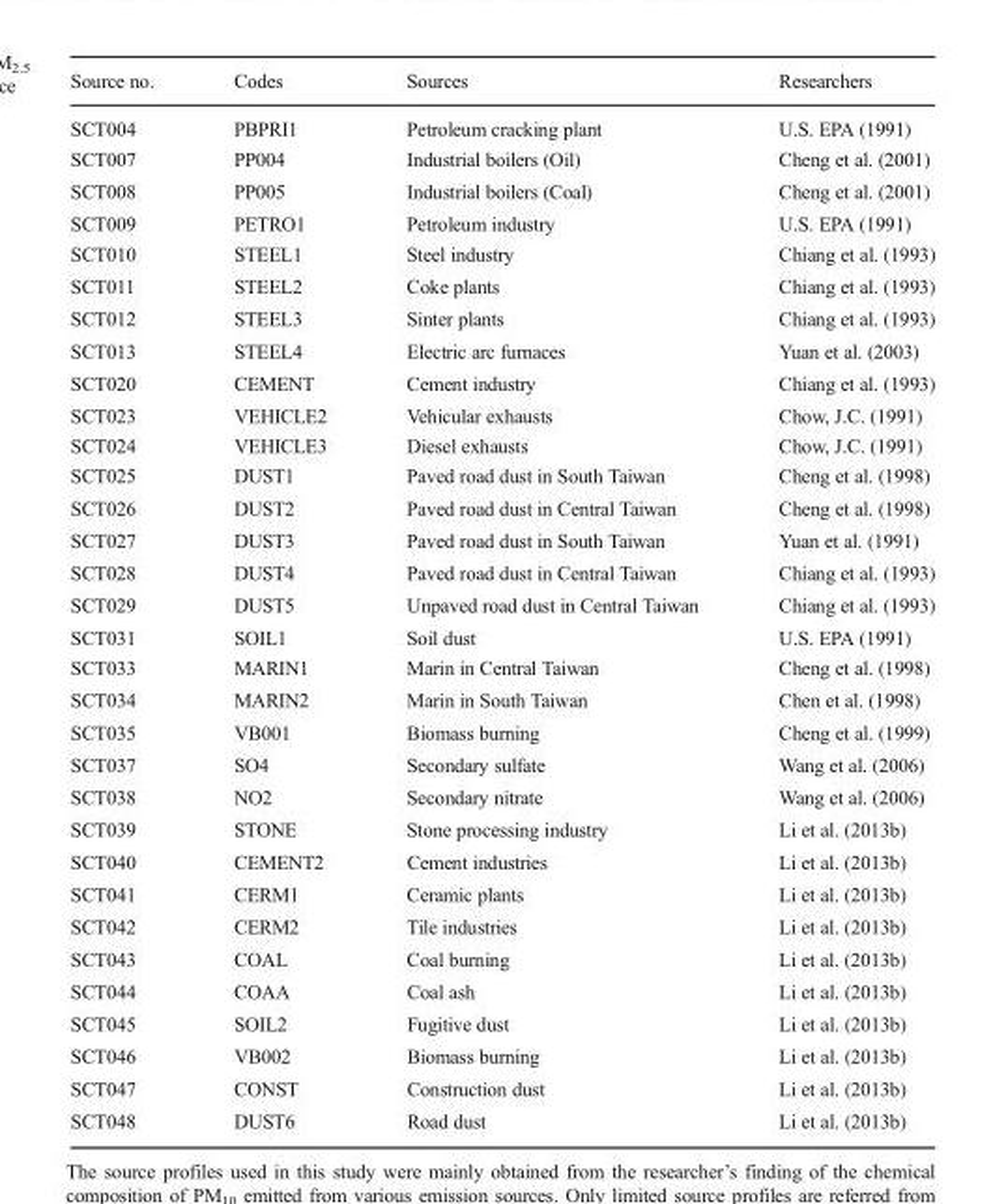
<table><thead><tr><td>Source no.</td><td>Codes</td><td>Sources</td><td>Researchers</td></tr></thead><tbody><tr><td>SCT004</td><td>PBPRI1</td><td>Petroleum cracking plant</td><td>U.S. EPA (1991)</td></tr><tr><td>SCT007</td><td>PP004</td><td>Industrial boilers (Oil)</td><td>Cheng et al. (2001)</td></tr><tr><td>SCT008</td><td>PP005</td><td>Industrial boilers (Coal)</td><td>Cheng et al. (2001)</td></tr><tr><td>SCT009</td><td>PETRO1</td><td>Petroleum industry</td><td>U.S. EPA (1991)</td></tr><tr><td>SCT010</td><td>STEEL1</td><td>Steel industry</td><td>Chiang et al. (1993)</td></tr><tr><td>SCT011</td><td>STEEL2</td><td>Coke plants</td><td>Chiang et al. (1993)</td></tr><tr><td>SCT012</td><td>STEEL3</td><td>Sinter plants</td><td>Chiang et al. (1993)</td></tr><tr><td>SCT013</td><td>STEEL4</td><td>Electric arc furnaces</td><td>Yuan et al. (2003)</td></tr><tr><td>SCT020</td><td>CEMENT</td><td>Cement industry</td><td>Chiang et al. (1993)</td></tr><tr><td>SCT023</td><td>VEHICLE2</td><td>Vehicular exhausts</td><td>Chow, J.C. (1991)</td></tr><tr><td>SCT024</td><td>VEHICLE3</td><td>Diesel exhausts</td><td>Chow, J.C. (1991)</td></tr><tr><td>SCT025</td><td>DUST1</td><td>Paved road dust in South Taiwan</td><td>Cheng et al. (1998)</td></tr><tr><td>SCT026</td><td>DUST2</td><td>Paved road dust in Central Taiwan</td><td>Cheng et al. (1998)</td></tr><tr><td>SCT027</td><td>DUST3</td><td>Paved road dust in South Taiwan</td><td>Yuan et al. (1991)</td></tr><tr><td>SCT028</td><td>DUST4</td><td>Paved road dust in Central Taiwan</td><td>Chiang et al. (1993)</td></tr><tr><td>SCT029</td><td>DUST5</td><td>Unpaved road dust in Central Taiwan</td><td>Chiang et al. (1993)</td></tr><tr><td>SCT031</td><td>SOIL1</td><td>Soil dust</td><td>U.S. EPA (1991)</td></tr><tr><td>SCT033</td><td>MARIN1</td><td>Marin in Central Taiwan</td><td>Cheng et al. (1998)</td></tr><tr><td>SCT034</td><td>MARIN2</td><td>Marin in South Taiwan</td><td>Chen et al. (1998)</td></tr><tr><td>SCT035</td><td>VB001</td><td>Biomass burning</td><td>Cheng et al. (1999)</td></tr><tr><td>SCT037</td><td>SO4</td><td>Secondary sulfate</td><td>Wang et al. (2006)</td></tr><tr><td>SCT038</td><td>NO2</td><td>Secondary nitrate</td><td>Wang et al. (2006)</td></tr><tr><td>SCT039</td><td>STONE</td><td>Stone processing industry</td><td>Li et al. (2013b)</td></tr><tr><td>SCT040</td><td>CEMENT2</td><td>Cement industries</td><td>Li et al. (2013b)</td></tr><tr><td>SCT041</td><td>CERM1</td><td>Ceramic plants</td><td>Li et al. (2013b)</td></tr><tr><td>SCT042</td><td>CERM2</td><td>Tile industries</td><td>Li et al. (2013b)</td></tr><tr><td>SCT043</td><td>COAL</td><td>Coal burning</td><td>Li et al. (2013b)</td></tr><tr><td>SCT044</td><td>COAA</td><td>Coal ash</td><td>Li et al. (2013b)</td></tr><tr><td>SCT045</td><td>SOIL2</td><td>Fugitive dust</td><td>Li et al. (2013b)</td></tr><tr><td>SCT046</td><td>VB002</td><td>Biomass burning</td><td>Li et al. (2013b)</td></tr><tr><td>SCT047</td><td>CONST</td><td>Construction dust</td><td>Li et al. (2013b)</td></tr><tr><td>SCT048</td><td>DUST6</td><td>Road dust</td><td>Li et al. (2013b)</td></tr></tbody></table>